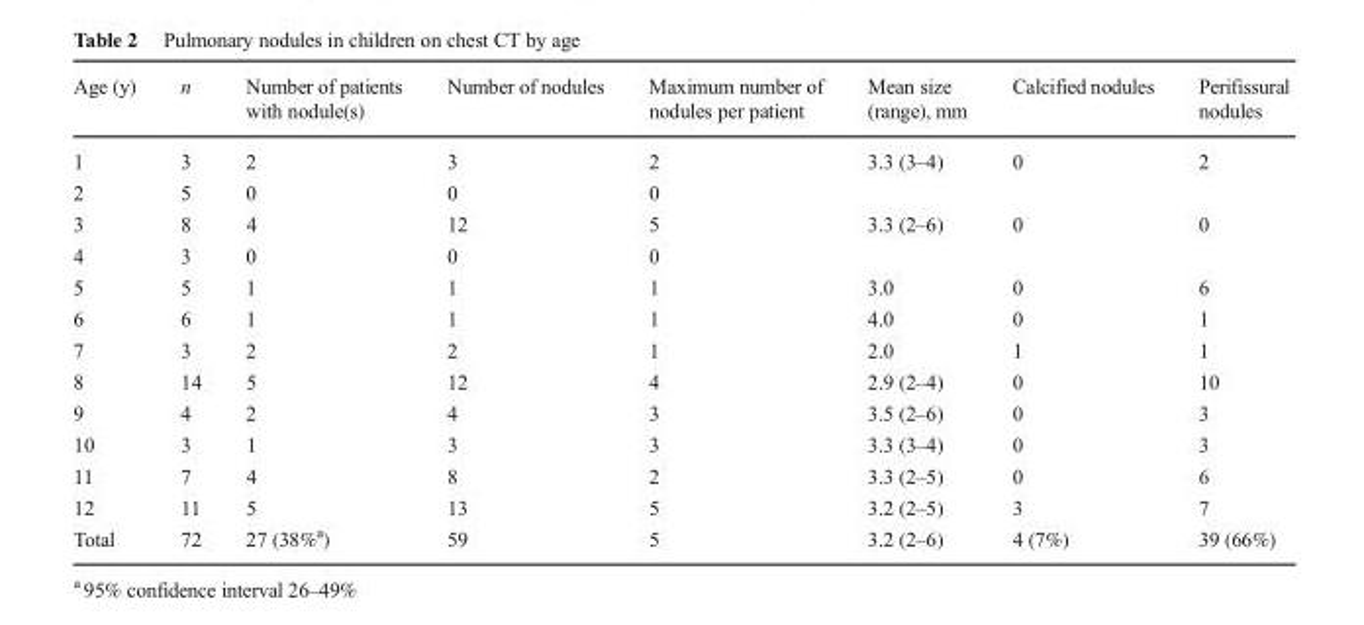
<table><thead><tr><td>Age (y)</td><td>n</td><td>Number of patients with nodule(s)</td><td>Number of nodules</td><td>Maximum number of nodules per patient</td><td>Mean size (range), mm</td><td>Calcified nodules</td><td>Perifissural nodules</td></tr></thead><tbody><tr><td>1</td><td>3</td><td>2</td><td>3</td><td>2</td><td>3.3 (3–4)</td><td>0</td><td>2</td></tr><tr><td>2</td><td>5</td><td>0</td><td>0</td><td>0</td><td></td><td></td><td></td></tr><tr><td>3</td><td>8</td><td>4</td><td>12</td><td>5</td><td>3.3 (2–6)</td><td>0</td><td>0</td></tr><tr><td>4</td><td>3</td><td>0</td><td>0</td><td>0</td><td></td><td></td><td></td></tr><tr><td>5</td><td>5</td><td>1</td><td>1</td><td>1</td><td>3.0</td><td>0</td><td>6</td></tr><tr><td>6</td><td>6</td><td>1</td><td>1</td><td>1</td><td>4.0</td><td>0</td><td>1</td></tr><tr><td>7</td><td>3</td><td>2</td><td>2</td><td>1</td><td>2.0</td><td>1</td><td>1</td></tr><tr><td>8</td><td>14</td><td>5</td><td>12</td><td>4</td><td>2.9 (2–4)</td><td>0</td><td>10</td></tr><tr><td>9</td><td>4</td><td>2</td><td>4</td><td>3</td><td>3.5 (2–6)</td><td>0</td><td>3</td></tr><tr><td>10</td><td>3</td><td>1</td><td>3</td><td>3</td><td>3.3 (3–4)</td><td>0</td><td>3</td></tr><tr><td>11</td><td>7</td><td>4</td><td>8</td><td>2</td><td>3.3 (2–5)</td><td>0</td><td>6</td></tr><tr><td>12</td><td>11</td><td>5</td><td>13</td><td>5</td><td>3.2 (2–5)</td><td>3</td><td>7</td></tr><tr><td>Total</td><td>72</td><td>27 (38%<sup>a</sup>)</td><td>59</td><td>5</td><td>3.2 (2–6)</td><td>4 (7%)</td><td>39 (66%)</td></tr></tbody></table>